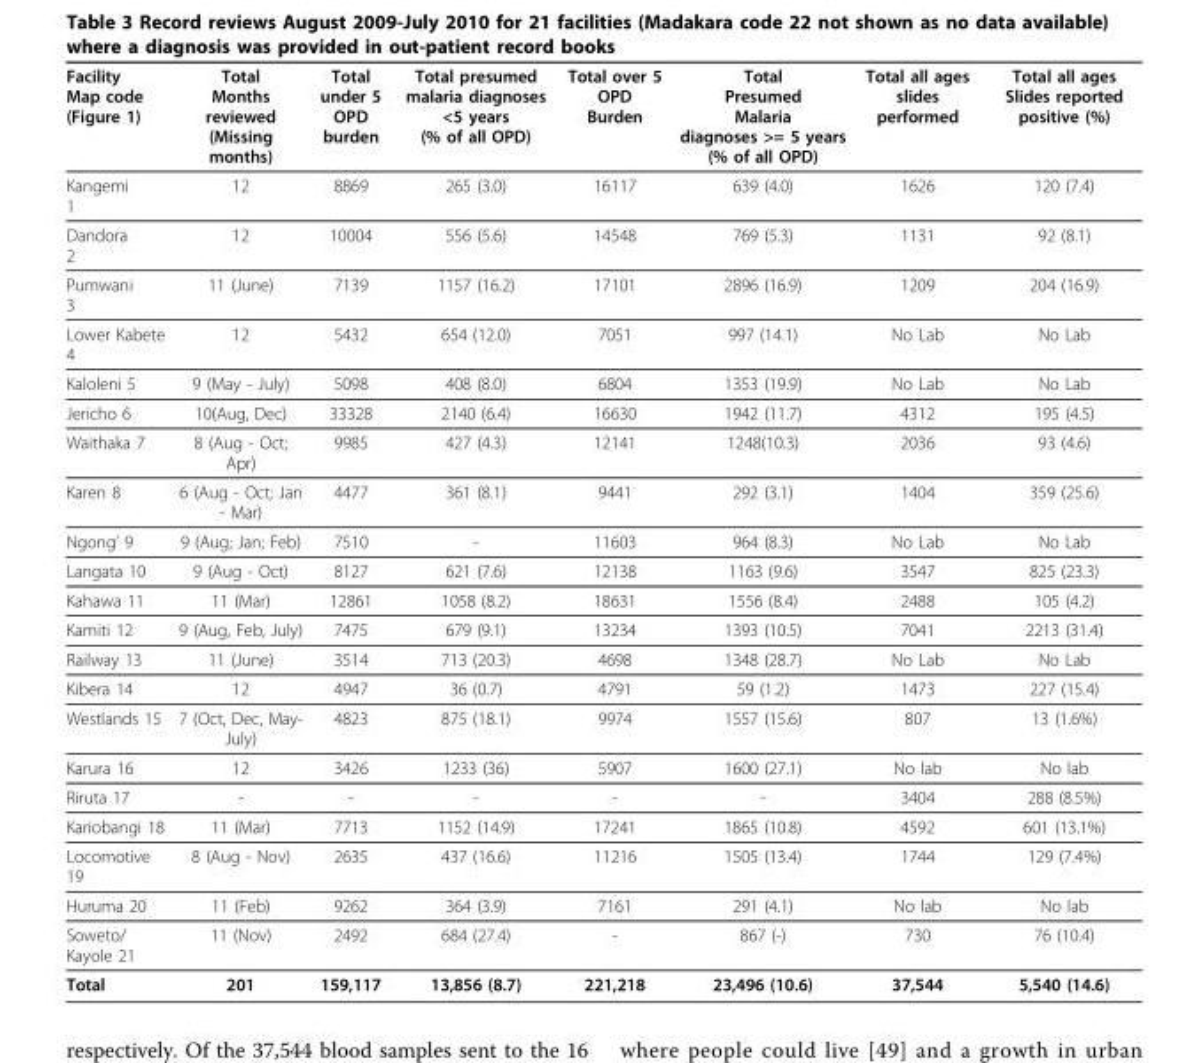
<table><thead><tr><td>Facility Map code (Figure 1)</td><td>Total Months reviewed (Missing months)</td><td>Total under 5 OPD burden</td><td>Total presumed malaria diagnoses &lt;5 years (% of all OPD)</td><td>Total over 5 OPD Burden</td><td>Total Presumed Malaria diagnoses &gt;= 5 years (% of all OPD)</td><td>Total all ages slides performed</td><td>Total all ages Slides reported positive (%)</td></tr></thead><tbody><tr><td>Kangemi 1</td><td>12</td><td>8869</td><td>265 (3.0)</td><td>16117</td><td>639 (4.0)</td><td>1626</td><td>120 (7.4)</td></tr><tr><td>Dandora 2</td><td>12</td><td>10004</td><td>556 (5.6)</td><td>14548</td><td>769 (5.3)</td><td>1131</td><td>92 (8.1)</td></tr><tr><td>Pumwani 3</td><td>11 (June)</td><td>7139</td><td>1157 (16.2)</td><td>17101</td><td>2896 (16.9)</td><td>1209</td><td>204 (16.9)</td></tr><tr><td>Lower Kabete 4</td><td>12</td><td>5432</td><td>654 (12.0)</td><td>7051</td><td>997 (14.1)</td><td>No Lab</td><td>No Lab</td></tr><tr><td>Kaloleni 5</td><td>9 (May - July)</td><td>5098</td><td>408 (8.0)</td><td>6804</td><td>1353 (19.9)</td><td>No Lab</td><td>No Lab</td></tr><tr><td>Jericho 6</td><td>10(Aug, Dec)</td><td>33328</td><td>2140 (6.4)</td><td>16630</td><td>1942 (11.7)</td><td>4312</td><td>195 (4.5)</td></tr><tr><td>Waithaka 7</td><td>8 (Aug - Oct; Apr)</td><td>9985</td><td>427 (4.3)</td><td>12141</td><td>1248(10.3)</td><td>2036</td><td>93 (4.6)</td></tr><tr><td>Karen 8</td><td>6 (Aug - Oct; Jan - Mar)</td><td>4477</td><td>361 (8.1)</td><td>9441</td><td>292 (3.1)</td><td>1404</td><td>359 (25.6)</td></tr><tr><td>Ngong’ 9</td><td>9 (Aug; Jan; Feb)</td><td>7510</td><td>-</td><td>11603</td><td>964 (8.3)</td><td>No Lab</td><td>No Lab</td></tr><tr><td>Langata 10</td><td>9 (Aug - Oct)</td><td>8127</td><td>621 (7.6)</td><td>12138</td><td>1163 (9.6)</td><td>3547</td><td>825 (23.3)</td></tr><tr><td>Kahawa 11</td><td>11 (Mar)</td><td>12861</td><td>1058 (8.2)</td><td>18631</td><td>1556 (8.4)</td><td>2488</td><td>105 (4.2)</td></tr><tr><td>Kamiti 12</td><td>9 (Aug, Feb, July)</td><td>7475</td><td>679 (9.1)</td><td>13234</td><td>1393 (10.5)</td><td>7041</td><td>2213 (31.4)</td></tr><tr><td>Railway 13</td><td>11 (June)</td><td>3514</td><td>713 (20.3)</td><td>4698</td><td>1348 (28.7)</td><td>No Lab</td><td>No Lab</td></tr><tr><td>Kibera 14</td><td>12</td><td>4947</td><td>36 (0.7)</td><td>4791</td><td>59 (1.2)</td><td>1473</td><td>227 (15.4)</td></tr><tr><td>Westlands 15</td><td>7 (Oct, Dec, May- July)</td><td>4823</td><td>875 (18.1)</td><td>9974</td><td>1557 (15.6)</td><td>807</td><td>13 (1.6%)</td></tr><tr><td>Karura 16</td><td>12</td><td>3426</td><td>1233 (36)</td><td>5907</td><td>1600 (27.1)</td><td>No lab</td><td>No lab</td></tr><tr><td>Riruta 17</td><td>-</td><td>-</td><td>-</td><td>-</td><td>-</td><td>3404</td><td>288 (8.5%)</td></tr><tr><td>Kariobangi 18</td><td>11 (Mar)</td><td>7713</td><td>1152 (14.9)</td><td>17241</td><td>1865 (10.8)</td><td>4592</td><td>601 (13.1%)</td></tr><tr><td>Locomotive 19</td><td>8 (Aug - Nov)</td><td>2635</td><td>437 (16.6)</td><td>11216</td><td>1505 (13.4)</td><td>1744</td><td>129 (7.4%)</td></tr><tr><td>Huruma 20</td><td>11 (Feb)</td><td>9262</td><td>364 (3.9)</td><td>7161</td><td>291 (4.1)</td><td>No lab</td><td>No lab</td></tr><tr><td>Soweto/ Kayole 21</td><td>11 (Nov)</td><td>2492</td><td>684 (27.4)</td><td>-</td><td>867 (-)</td><td>730</td><td>76 (10.4)</td></tr><tr><td>Total</td><td>201</td><td>159,117</td><td>13,856 (8.7)</td><td>221,218</td><td>23,496 (10.6)</td><td>37,544</td><td>5,540 (14.6)</td></tr></tbody></table>